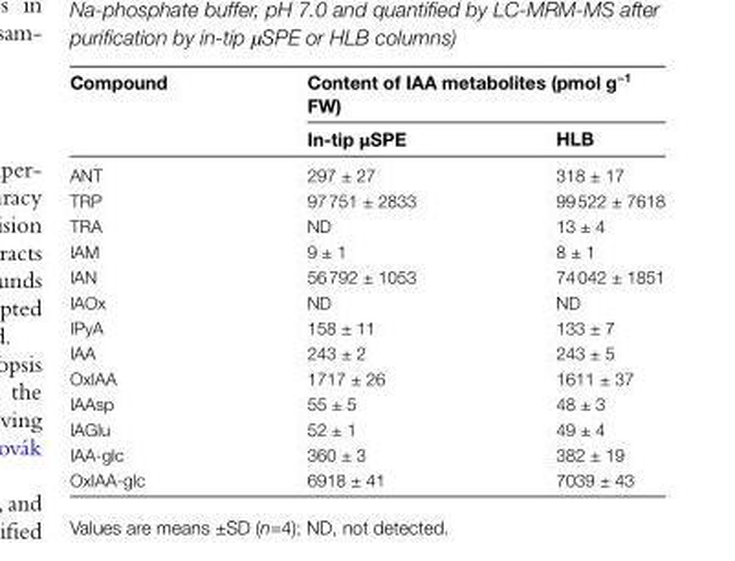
<table><thead><tr><td rowspan="2">Compound</td><td colspan="2">Content of IAA metabolites (pmol g<sup>−1</sup> FW)</td></tr><tr><td>In-tip µSPE</td><td>HLB</td></tr></thead><tbody><tr><td>ANT</td><td>297 ± 27</td><td>318 ± 17</td></tr><tr><td>TRP</td><td>97 751 ± 2833</td><td>99 522 ± 7618</td></tr><tr><td>TRA</td><td>ND</td><td>13 ± 4</td></tr><tr><td>IAM</td><td>9 ± 1</td><td>8 ± 1</td></tr><tr><td>IAN</td><td>56 792 ± 1053</td><td>74 042 ± 1851</td></tr><tr><td>IAOx</td><td>ND</td><td>ND</td></tr><tr><td>IPyA</td><td>158 ± 11</td><td>133 ± 7</td></tr><tr><td>IAA</td><td>243 ± 2</td><td>243 ± 5</td></tr><tr><td>OxIAA</td><td>1717 ± 26</td><td>1611 ± 37</td></tr><tr><td>IAAsp</td><td>55 ± 5</td><td>48 ± 3</td></tr><tr><td>IAGlu</td><td>52 ± 1</td><td>49 ± 4</td></tr><tr><td>IAA-glc</td><td>360 ± 3</td><td>382 ± 19</td></tr><tr><td>OxIAA-glc</td><td>6918 ± 41</td><td>7039 ± 43</td></tr></tbody></table>